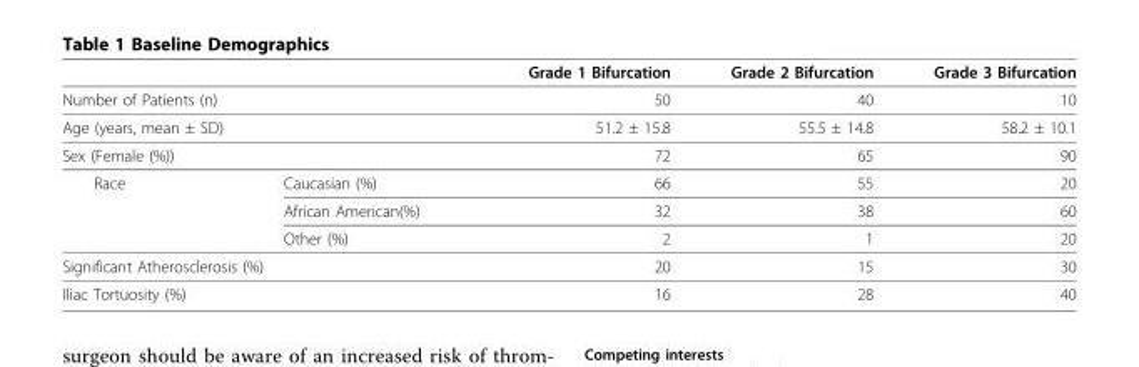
<table><thead><tr><td></td><td></td><td>Grade 1 Bifurcation</td><td>Grade 2 Bifurcation</td><td>Grade 3 Bifurcation</td></tr></thead><tbody><tr><td>Number of Patients (n)</td><td></td><td>50</td><td>40</td><td>10</td></tr><tr><td>Age (years, mean ± SD)</td><td></td><td>51.2 ± 15.8</td><td>55.5 ± 14.8</td><td>58.2 ± 10.1</td></tr><tr><td>Sex (Female (%))</td><td></td><td>72</td><td>65</td><td>90</td></tr><tr><td rowspan="3">Race</td><td>Caucasian (%)</td><td>66</td><td>55</td><td>20</td></tr><tr><td>African American(%)</td><td>32</td><td>38</td><td>60</td></tr><tr><td>Other (%)</td><td>2</td><td>1</td><td>20</td></tr><tr><td colspan="2">Significant Atherosclerosis (%)</td><td>20</td><td>15</td><td>30</td></tr><tr><td colspan="2">Iliac Tortuosity (%)</td><td>16</td><td>28</td><td>40</td></tr></tbody></table>